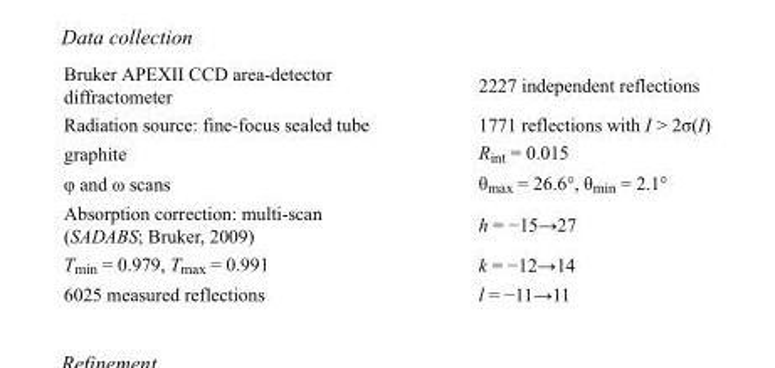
<table><tbody><tr><td>Bruker APEXII CCD area-detector diffractometer</td><td>2227 independent reflections</td></tr><tr><td>Radiation source: fine-focus sealed tube</td><td>1771 reflections with I &gt; 2σ(I)</td></tr><tr><td>graphite</td><td>R<sub>int</sub> = 0.015</td></tr><tr><td>φ and ω scans</td><td>θ<sub>max</sub> = 26.6°, θ<sub>min</sub> = 2.1°</td></tr><tr><td>Absorption correction: multi-scan (SADABS; Bruker, 2009)</td><td>h = −15→27</td></tr><tr><td>T<sub>min</sub> = 0.979, T<sub>max</sub> = 0.991</td><td>k = −12→14</td></tr><tr><td>6025 measured reflections</td><td>l = −11→11</td></tr></tbody></table>